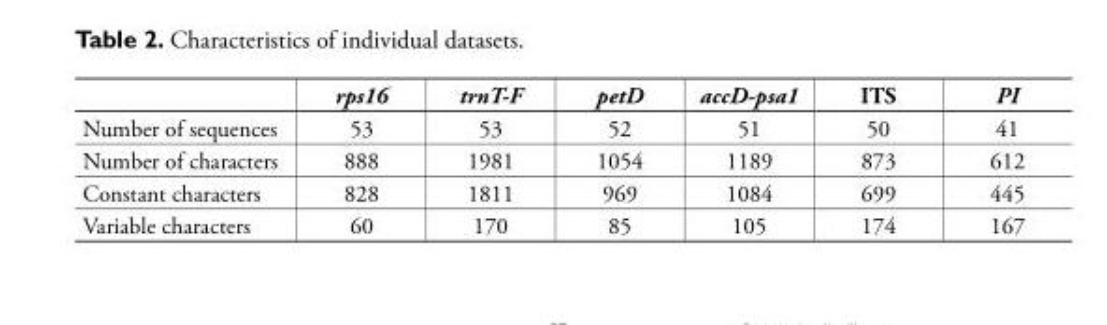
<table><thead><tr><td></td><td>rps16</td><td>trnT-F</td><td>petD</td><td>accD-psa1</td><td>ITS</td><td>PI</td></tr></thead><tbody><tr><td>Number of sequences</td><td>53</td><td>53</td><td>52</td><td>51</td><td>50</td><td>41</td></tr><tr><td>Number of characters</td><td>888</td><td>1981</td><td>1054</td><td>1189</td><td>873</td><td>612</td></tr><tr><td>Constant characters</td><td>828</td><td>1811</td><td>969</td><td>1084</td><td>699</td><td>445</td></tr><tr><td>Variable characters</td><td>60</td><td>170</td><td>85</td><td>105</td><td>174</td><td>167</td></tr></tbody></table>